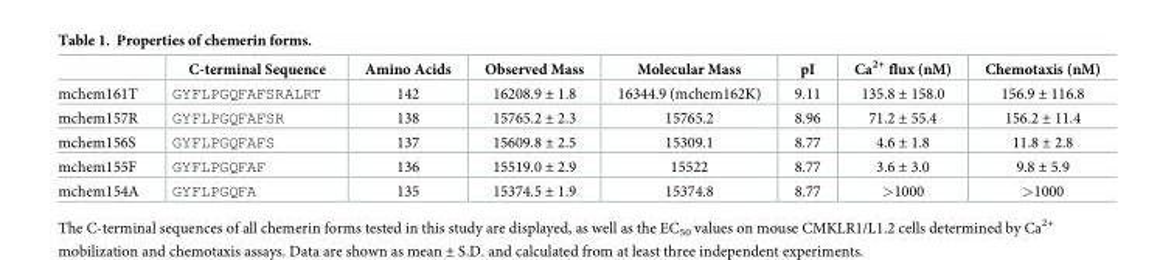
<table><thead><tr><td></td><td>C-terminal Sequence</td><td>Amino Acids</td><td>Observed Mass</td><td>Molecular Mass</td><td>pI</td><td>Ca<sup>2+</sup> flux (nM)</td><td>Chemotaxis (nM)</td></tr></thead><tbody><tr><td>mchem161T</td><td>GYFLPGQFAFSRALRT</td><td>142</td><td>16208.9 ± 1.8</td><td>16344.9 (mchem162K)</td><td>9.11</td><td>135.8 ± 158.0</td><td>156.9 ± 116.8</td></tr><tr><td>mchem157R</td><td>GYFLPGQFAFSR</td><td>138</td><td>15765.2 ± 2.3</td><td>15765.2</td><td>8.96</td><td>71.2 ± 55.4</td><td>156.2 ± 11.4</td></tr><tr><td>mchem156S</td><td>GYFLPGQFAFS</td><td>137</td><td>15609.8 ± 2.5</td><td>15309.1</td><td>8.77</td><td>4.6 ± 1.8</td><td>11.8 ± 2.8</td></tr><tr><td>mchem155F</td><td>GYFLPGQFAF</td><td>136</td><td>15519.0 ± 2.9</td><td>15522</td><td>8.77</td><td>3.6 ± 3.0</td><td>9.8 ± 5.9</td></tr><tr><td>mchem154A</td><td>GYFLPGQFA</td><td>135</td><td>15374.5 ± 1.9</td><td>15374.8</td><td>8.77</td><td>&gt;1000</td><td>&gt;1000</td></tr></tbody></table>